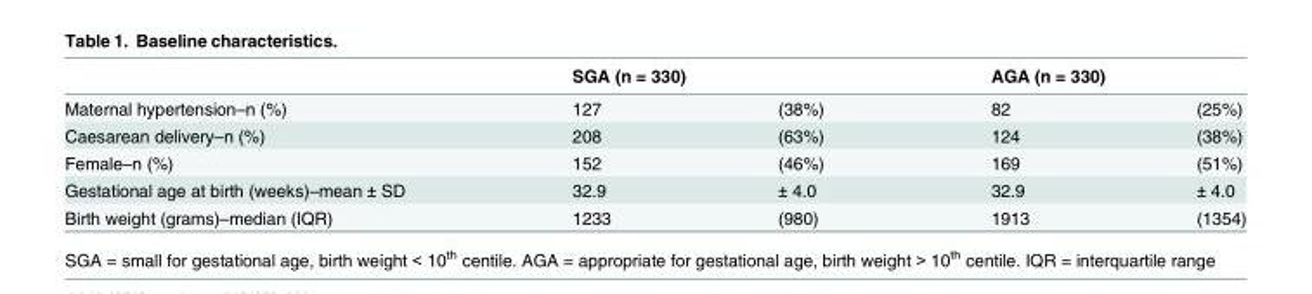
<table><thead><tr><td rowspan="2">Maternal hypertension–n (%)</td><td colspan="2">SGA (n = 330)</td><td colspan="2">AGA (n = 330)</td></tr><tr><td>127</td><td>(38%)</td><td>82</td><td>(25%)</td></tr></thead><tbody><tr><td>Caesarean delivery–n (%)</td><td>208</td><td>(63%)</td><td>124</td><td>(38%)</td></tr><tr><td>Female–n (%)</td><td>152</td><td>(46%)</td><td>169</td><td>(51%)</td></tr><tr><td>Gestational age at birth (weeks)–mean ± SD</td><td>32.9</td><td>± 4.0</td><td>32.9</td><td>± 4.0</td></tr><tr><td>Birth weight (grams)–median (IQR)</td><td>1233</td><td>(980)</td><td>1913</td><td>(1354)</td></tr></tbody></table>